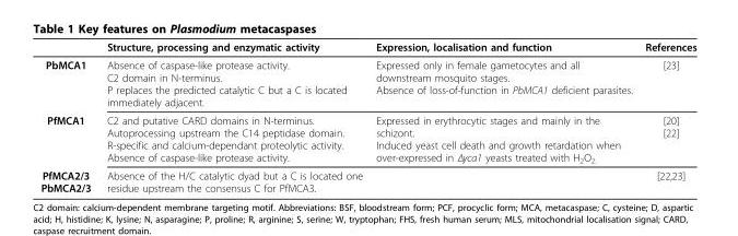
<table><thead><tr><td></td><td>Structure, processing and enzymatic activity</td><td>Expression, localisation and function</td><td>References</td></tr></thead><tbody><tr><td>PbMCA1</td><td>Absence of caspase-like protease activity. C2 domain in N-terminus. P replaces the predicted catalytic C but a C is located immediately adjacent.</td><td>Expressed only in female gametocytes and all downstream mosquito stages. Absence of loss-of-function in PbMCA1 deficient parasites.</td><td>[23]</td></tr><tr><td>PfMCA1</td><td>C2 and putative CARD domains in N-terminus. Autoprocessing upstream the C14 peptidase domain. R-specific and calcium-dependant proteolytic activity. Absence of caspase-like protease activity.</td><td>Expressed in erythrocytic stages and mainly in the schizont. Induced yeast cell death and growth retardation when over-expressed in Δyca1 yeasts treated with H<sub>2</sub>O<sub>2.</sub></td><td>[20] [22]</td></tr><tr><td>PfMCA2/3 PbMCA2/3</td><td>Absence of the H/C catalytic dyad but a C is located one residue upstream the consensus C for PfMCA3.</td><td></td><td>[22,23]</td></tr></tbody></table>